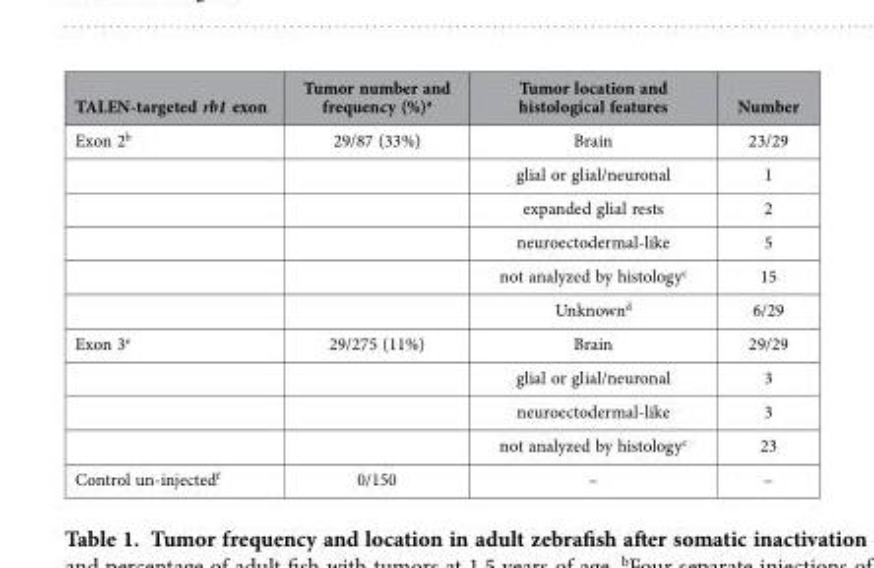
<table><thead><tr><td>TALEN-targeted rb1 exon</td><td>Tumor number and frequency (%)<sup>a</sup></td><td>Tumor location and histological features</td><td>Number</td></tr></thead><tbody><tr><td rowspan="6">Exon 2<sup>b</sup></td><td>29/87 (33%)</td><td>Brain</td><td>23/29</td></tr><tr><td></td><td>glial or glial/neuronal</td><td>1</td></tr><tr><td></td><td>expanded glial rests</td><td>2</td></tr><tr><td></td><td>neuroectodermal-like</td><td>5</td></tr><tr><td></td><td>not analyzed by histology<sup>c</sup></td><td>15</td></tr><tr><td></td><td>Unknown<sup>d</sup></td><td>6/29</td></tr><tr><td rowspan="4">Exon 3<sup>e</sup></td><td>29/275 (11%)</td><td>Brain</td><td>29/29</td></tr><tr><td></td><td>glial or glial/neuronal</td><td>3</td></tr><tr><td></td><td>neuroectodermal-like</td><td>3</td></tr><tr><td></td><td>not analyzed by histology<sup>c</sup></td><td>23</td></tr><tr><td>Control un-injected<sup>f</sup></td><td>0/150</td><td>–</td><td>–</td></tr></tbody></table>